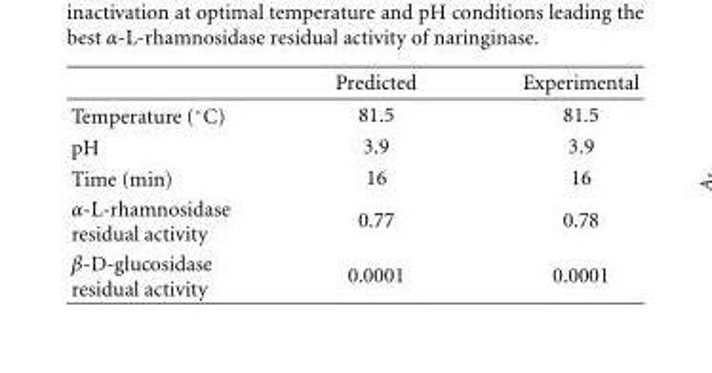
<table><thead><tr><td></td><td>Predicted</td><td>Experimental</td></tr></thead><tbody><tr><td>Temperature (◦C)</td><td>81.5</td><td>81.5</td></tr><tr><td>pH</td><td>3.9</td><td>3.9</td></tr><tr><td>Time (min)</td><td>16</td><td>16</td></tr><tr><td>α-L-rhamnosidase residual activity</td><td>0.77</td><td>0.78</td></tr><tr><td>β-D-glucosidase residual activity</td><td>0.0001</td><td>0.0001</td></tr></tbody></table>